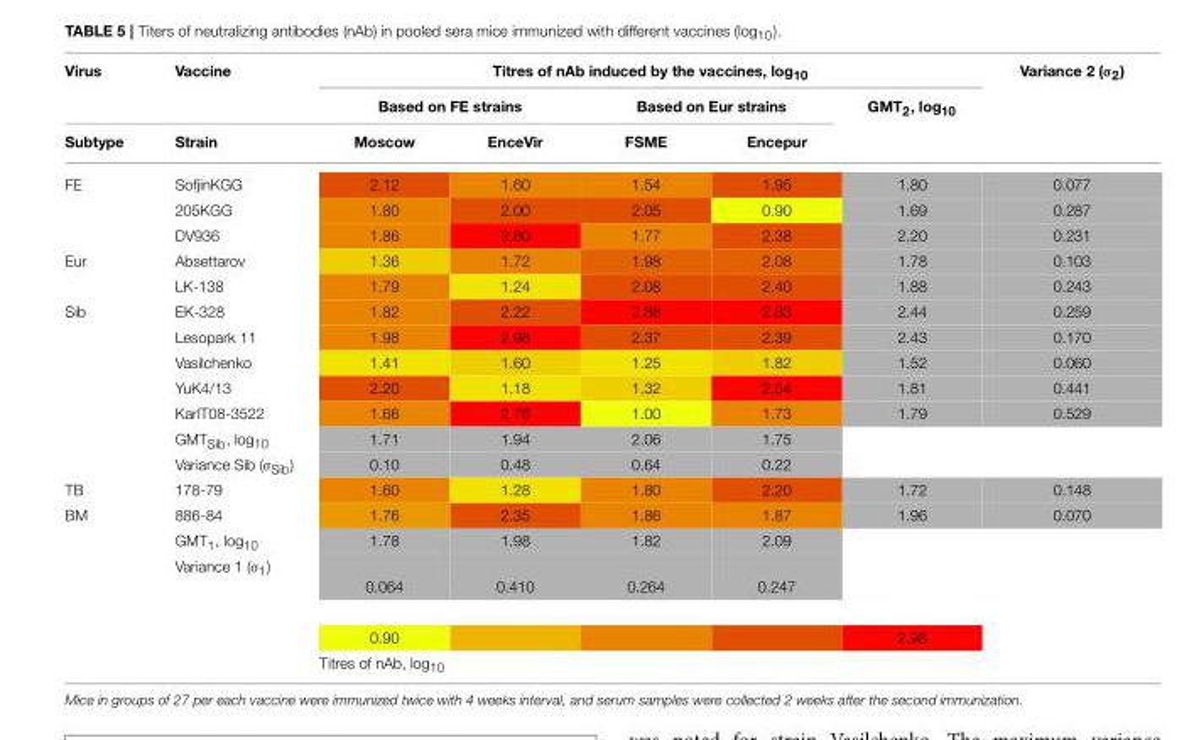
<table><thead><tr><td rowspan="3">Virus Subtype</td><td rowspan="3">Vaccine Strain</td><td colspan="5">Titres of nAb induced by the vaccines, log<sub>10</sub></td><td rowspan="3">Variance 2 (σ<sub>2</sub>)</td></tr><tr><td colspan="2">Based on FE strains</td><td colspan="2">Based on Eur strains</td><td rowspan="2">GMT<sub>2</sub>, log<sub>10</sub></td></tr><tr><td>Moscow</td><td>EnceVir</td><td>FSME</td><td>Encepur</td></tr></thead><tbody><tr><td rowspan="3">FE</td><td>SofjinKGG</td><td>2.12</td><td>1.60</td><td>1.54</td><td>1.95</td><td>1.80</td><td>0.077</td></tr><tr><td>205KGG</td><td>1.80</td><td>2.00</td><td>2.05</td><td>0.90</td><td>1.69</td><td>0.287</td></tr><tr><td>DV936</td><td>1.86</td><td>2.80</td><td>1.77</td><td>2.38</td><td>2.20</td><td>0.231</td></tr><tr><td rowspan="2">Eur</td><td>Absettarov</td><td>1.36</td><td>1.72</td><td>1.98</td><td>2.08</td><td>1.78</td><td>0.103</td></tr><tr><td>LK-138</td><td>1.79</td><td>1.24</td><td>2.08</td><td>2.40</td><td>1.88</td><td>0.243</td></tr><tr><td rowspan="7">Sib</td><td>EK-328</td><td>1.82</td><td>2.22</td><td>2.88</td><td>2.83</td><td>2.44</td><td>0.259</td></tr><tr><td>Lesopark 11</td><td>1.98</td><td>2.98</td><td>2.37</td><td>2.39</td><td>2.43</td><td>0.170</td></tr><tr><td>Vasilchenko</td><td>1.41</td><td>1.60</td><td>1.25</td><td>1.82</td><td>1.52</td><td>0.060</td></tr><tr><td>YuK4/13</td><td>2.20</td><td>1.18</td><td>1.32</td><td>2.54</td><td>1.81</td><td>0.441</td></tr><tr><td>KarlT08-3522</td><td>1.66</td><td>2.76</td><td>1.00</td><td>1.73</td><td>1.79</td><td>0.529</td></tr><tr><td>GMT<sub>Sib</sub>, log<sub>10</sub></td><td>1.71</td><td>1.94</td><td>2.06</td><td>1.75</td><td></td><td></td></tr><tr><td>Variance Sib (σ<sub>Sib</sub>)</td><td>0.10</td><td>0.48</td><td>0.64</td><td>0.22</td><td></td><td></td></tr><tr><td>TB</td><td>178-79</td><td>1.60</td><td>1.28</td><td>1.80</td><td>2.20</td><td>1.72</td><td>0.148</td></tr><tr><td rowspan="5">BM</td><td>886-84</td><td>1.76</td><td>2.35</td><td>1.86</td><td>1.87</td><td>1.96</td><td>0.070</td></tr><tr><td>GMT<sub>1</sub>, log<sub>10</sub></td><td>1.78</td><td>1.98</td><td>1.82</td><td>2.09</td><td></td><td></td></tr><tr><td>Variance 1 (σ<sub>1</sub>)</td><td>0.064</td><td>0.410</td><td>0.264</td><td>0.247</td><td></td><td></td></tr><tr><td></td><td>0.90</td><td></td><td></td><td></td><td>2.98</td><td></td></tr><tr><td></td><td colspan="4">Titres of nAb, log<sub>10</sub></td><td></td><td></td></tr></tbody></table>